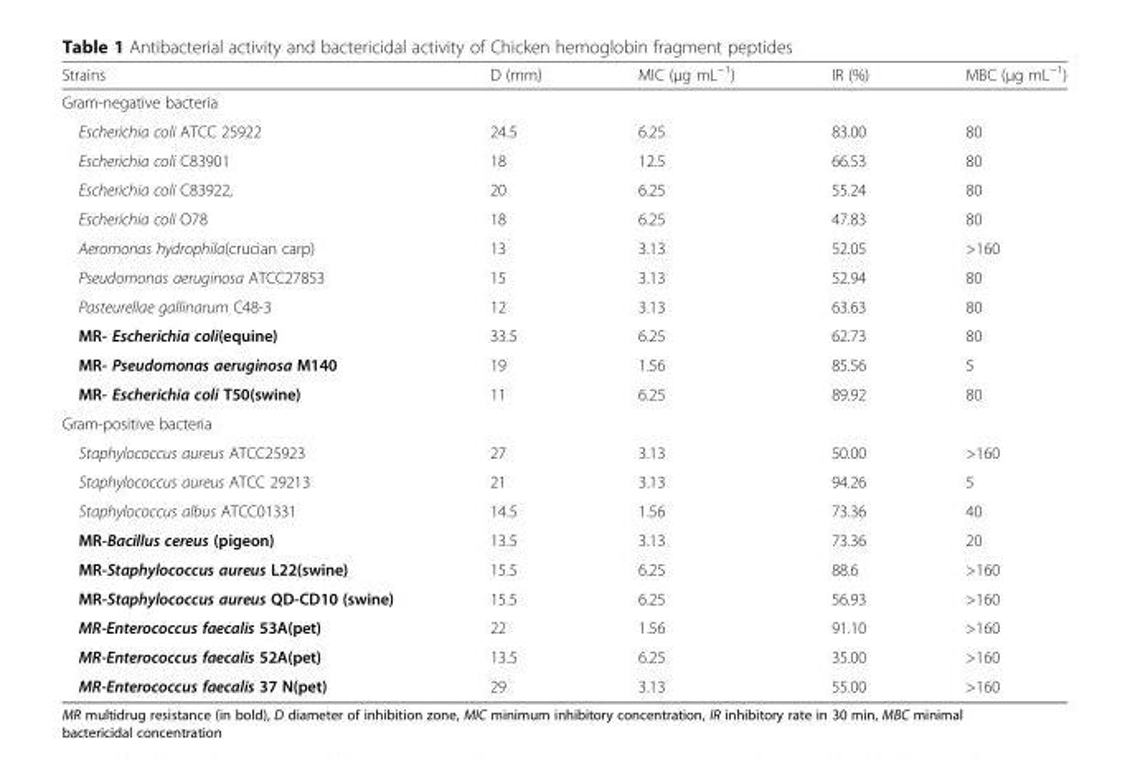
<table><thead><tr><td>Strains</td><td>D (mm)</td><td>MIC (μg mL<sup>−1</sup>)</td><td>IR (%)</td><td>MBC (μg mL<sup>−1</sup>)</td></tr></thead><tbody><tr><td colspan="5">Gram-negative bacteria</td></tr><tr><td>Escherichia coli ATCC 25922</td><td>24.5</td><td>6.25</td><td>83.00</td><td>80</td></tr><tr><td>Escherichia coli C83901</td><td>18</td><td>12.5</td><td>66.53</td><td>80</td></tr><tr><td>Escherichia coli C83922,</td><td>20</td><td>6.25</td><td>55.24</td><td>80</td></tr><tr><td>Escherichia coli O78</td><td>18</td><td>6.25</td><td>47.83</td><td>80</td></tr><tr><td>Aeromonas hydrophila(crucian carp)</td><td>13</td><td>3.13</td><td>52.05</td><td>&gt;160</td></tr><tr><td>Pseudomonas aeruginosa ATCC27853</td><td>15</td><td>3.13</td><td>52.94</td><td>80</td></tr><tr><td>Pasteurellae gallinarum C48-3</td><td>12</td><td>3.13</td><td>63.63</td><td>80</td></tr><tr><td>MR- Escherichia coli(equine)</td><td>33.5</td><td>6.25</td><td>62.73</td><td>80</td></tr><tr><td>MR- Pseudomonas aeruginosa M140</td><td>19</td><td>1.56</td><td>85.56</td><td>5</td></tr><tr><td>MR- Escherichia coli T50(swine)</td><td>11</td><td>6.25</td><td>89.92</td><td>80</td></tr><tr><td colspan="5">Gram-positive bacteria</td></tr><tr><td>Staphylococcus aureus ATCC25923</td><td>27</td><td>3.13</td><td>50.00</td><td>&gt;160</td></tr><tr><td>Staphylococcus aureus ATCC 29213</td><td>21</td><td>3.13</td><td>94.26</td><td>5</td></tr><tr><td>Staphylococcus albus ATCC01331</td><td>14.5</td><td>1.56</td><td>73.36</td><td>40</td></tr><tr><td>MR-Bacillus cereus (pigeon)</td><td>13.5</td><td>3.13</td><td>73.36</td><td>20</td></tr><tr><td>MR-Staphylococcus aureus L22(swine)</td><td>15.5</td><td>6.25</td><td>88.6</td><td>&gt;160</td></tr><tr><td>MR-Staphylococcus aureus QD-CD10 (swine)</td><td>15.5</td><td>6.25</td><td>56.93</td><td>&gt;160</td></tr><tr><td>MR-Enterococcus faecalis 53A(pet)</td><td>22</td><td>1.56</td><td>91.10</td><td>&gt;160</td></tr><tr><td>MR-Enterococcus faecalis 52A(pet)</td><td>13.5</td><td>6.25</td><td>35.00</td><td>&gt;160</td></tr><tr><td>MR-Enterococcus faecalis 37 N(pet)</td><td>29</td><td>3.13</td><td>55.00</td><td>&gt;160</td></tr></tbody></table>